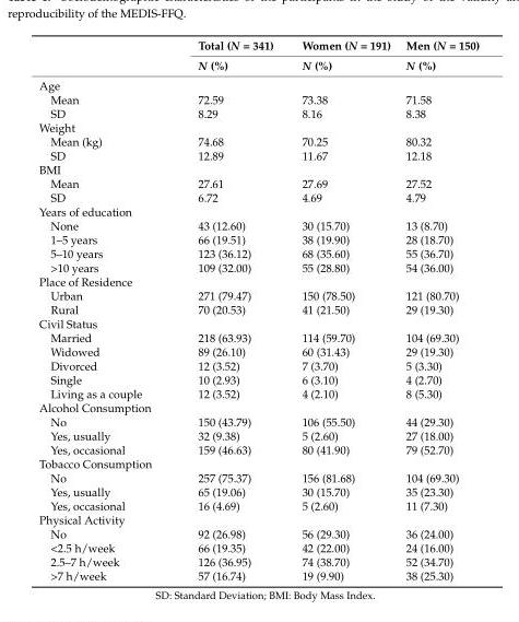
<table><thead><tr><td rowspan="2"></td><td rowspan="2">Total (N = 341) N (%)</td><td rowspan="2">Women (N = 191) N (%)</td><td rowspan="2">Men (N = 150) N (%)</td></tr><tr></tr></thead><tbody><tr><td colspan="4">Age</td></tr><tr><td>Mean</td><td>72.59</td><td>73.38</td><td>71.58</td></tr><tr><td>SD</td><td>8.29</td><td>8.16</td><td>8.38</td></tr><tr><td colspan="4">Weight</td></tr><tr><td>Mean (kg)</td><td>74.68</td><td>70.25</td><td>80.32</td></tr><tr><td>SD</td><td>12.89</td><td>11.67</td><td>12.18</td></tr><tr><td colspan="4">BMI</td></tr><tr><td>Mean</td><td>27.61</td><td>27.69</td><td>27.52</td></tr><tr><td>SD</td><td>6.72</td><td>4.69</td><td>4.79</td></tr><tr><td colspan="4">Years of education</td></tr><tr><td>None</td><td>43 (12.60)</td><td>30 (15.70)</td><td>13 (8.70)</td></tr><tr><td>1–5 years</td><td>66 (19.51)</td><td>38 (19.90)</td><td>28 (18.70)</td></tr><tr><td>5–10 years</td><td>123 (36.12)</td><td>68 (35.60)</td><td>55 (36.70)</td></tr><tr><td>&gt;10 years</td><td>109 (32.00)</td><td>55 (28.80)</td><td>54 (36.00)</td></tr><tr><td colspan="4">Place of Residence</td></tr><tr><td>Urban</td><td>271 (79.47)</td><td>150 (78.50)</td><td>121 (80.70)</td></tr><tr><td>Rural</td><td>70 (20.53)</td><td>41 (21.50)</td><td>29 (19.30)</td></tr><tr><td colspan="4">Civil Status</td></tr><tr><td>Married</td><td>218 (63.93)</td><td>114 (59.70)</td><td>104 (69.30)</td></tr><tr><td>Widowed</td><td>89 (26.10)</td><td>60 (31.43)</td><td>29 (19.30)</td></tr><tr><td>Divorced</td><td>12 (3.52)</td><td>7 (3.70)</td><td>5 (3.30)</td></tr><tr><td>Single</td><td>10 (2.93)</td><td>6 (3.10)</td><td>4 (2.70)</td></tr><tr><td>Living as a couple</td><td>12 (3.52)</td><td>4 (2.10)</td><td>8 (5.30)</td></tr><tr><td colspan="4">Alcohol Consumption</td></tr><tr><td>No</td><td>150 (43.79)</td><td>106 (55.50)</td><td>44 (29.30)</td></tr><tr><td>Yes, usually</td><td>32 (9.38)</td><td>5 (2.60)</td><td>27 (18.00)</td></tr><tr><td>Yes, occasional</td><td>159 (46.63)</td><td>80 (41.90)</td><td>79 (52.70)</td></tr><tr><td colspan="4">Tobacco Consumption</td></tr><tr><td>No</td><td>257 (75.37)</td><td>156 (81.68)</td><td>104 (69.30)</td></tr><tr><td>Yes, usually</td><td>65 (19.06)</td><td>30 (15.70)</td><td>35 (23.30)</td></tr><tr><td>Yes, occasional</td><td>16 (4.69)</td><td>5 (2.60)</td><td>11 (7.30)</td></tr><tr><td colspan="4">Physical Activity</td></tr><tr><td>No</td><td>92 (26.98)</td><td>56 (29.30)</td><td>36 (24.00)</td></tr><tr><td>&lt;2.5 h/week</td><td>66 (19.35)</td><td>42 (22.00)</td><td>24 (16.00)</td></tr><tr><td>2.5–7 h/week</td><td>126 (36.95)</td><td>74 (38.70)</td><td>52 (34.70)</td></tr><tr><td>&gt;7 h/week</td><td>57 (16.74)</td><td>19 (9.90)</td><td>38 (25.30)</td></tr></tbody></table>